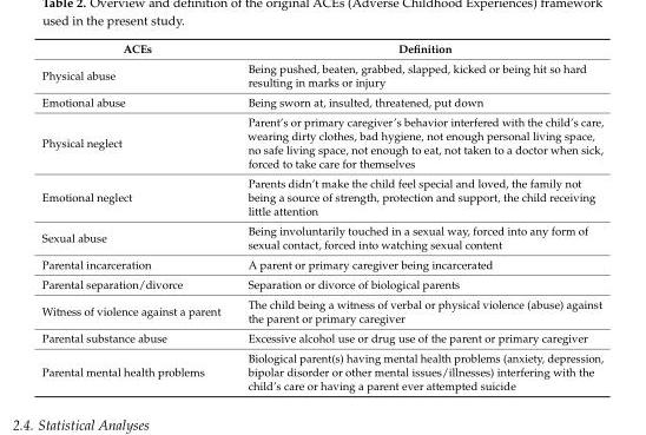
<table><thead><tr><td>ACEs</td><td>Definition</td></tr></thead><tbody><tr><td>Physical abuse</td><td>Being pushed, beaten, grabbed, slapped, kicked or being hit so hard resulting in marks or injury</td></tr><tr><td>Emotional abuse</td><td>Being sworn at, insulted, threatened, put down</td></tr><tr><td>Physical neglect</td><td>Parent’s or primary caregiver’s behavior interfered with the child’s care, wearing dirty clothes, bad hygiene, not enough personal living space, no safe living space, not enough to eat, not taken to a doctor when sick, forced to take care for themselves</td></tr><tr><td>Emotional neglect</td><td>Parents didn’t make the child feel special and loved, the family not being a source of strength, protection and support, the child receiving little attention</td></tr><tr><td>Sexual abuse</td><td>Being involuntarily touched in a sexual way, forced into any form of sexual contact, forced into watching sexual content</td></tr><tr><td>Parental incarceration</td><td>A parent or primary caregiver being incarcerated</td></tr><tr><td>Parental separation/divorce</td><td>Separation or divorce of biological parents</td></tr><tr><td>Witness of violence against a parent</td><td>The child being a witness of verbal or physical violence (abuse) against the parent or primary caregiver</td></tr><tr><td>Parental substance abuse</td><td>Excessive alcohol use or drug use of the parent or primary caregiver</td></tr><tr><td>Parental mental health problems</td><td>Biological parent(s) having mental health problems (anxiety, depression, bipolar disorder or other mental issues/illnesses) interfering with the child’s care or having a parent ever attempted suicide</td></tr></tbody></table>